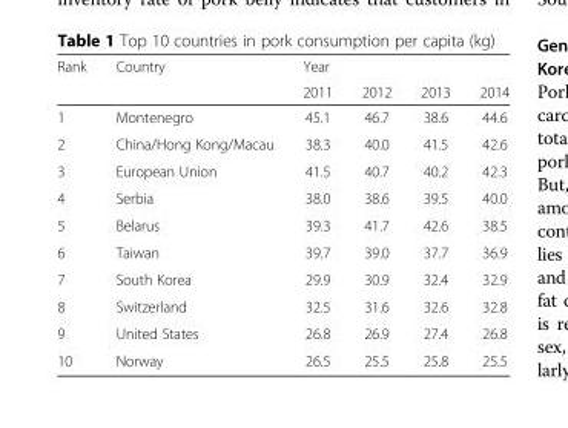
<table><thead><tr><td rowspan="2">Rank</td><td rowspan="2">Country</td><td colspan="4">Year</td></tr><tr><td>2011</td><td>2012</td><td>2013</td><td>2014</td></tr></thead><tbody><tr><td>1</td><td>Montenegro</td><td>45.1</td><td>46.7</td><td>38.6</td><td>44.6</td></tr><tr><td>2</td><td>China/Hong Kong/Macau</td><td>38.3</td><td>40.0</td><td>41.5</td><td>42.6</td></tr><tr><td>3</td><td>European Union</td><td>41.5</td><td>40.7</td><td>40.2</td><td>42.3</td></tr><tr><td>4</td><td>Serbia</td><td>38.0</td><td>38.6</td><td>39.5</td><td>40.0</td></tr><tr><td>5</td><td>Belarus</td><td>39.3</td><td>41.7</td><td>42.6</td><td>38.5</td></tr><tr><td>6</td><td>Taiwan</td><td>39.7</td><td>39.0</td><td>37.7</td><td>36.9</td></tr><tr><td>7</td><td>South Korea</td><td>29.9</td><td>30.9</td><td>32.4</td><td>32.9</td></tr><tr><td>8</td><td>Switzerland</td><td>32.5</td><td>31.6</td><td>32.6</td><td>32.8</td></tr><tr><td>9</td><td>United States</td><td>26.8</td><td>26.9</td><td>27.4</td><td>26.8</td></tr><tr><td>10</td><td>Norway</td><td>26.5</td><td>25.5</td><td>25.8</td><td>25.5</td></tr></tbody></table>